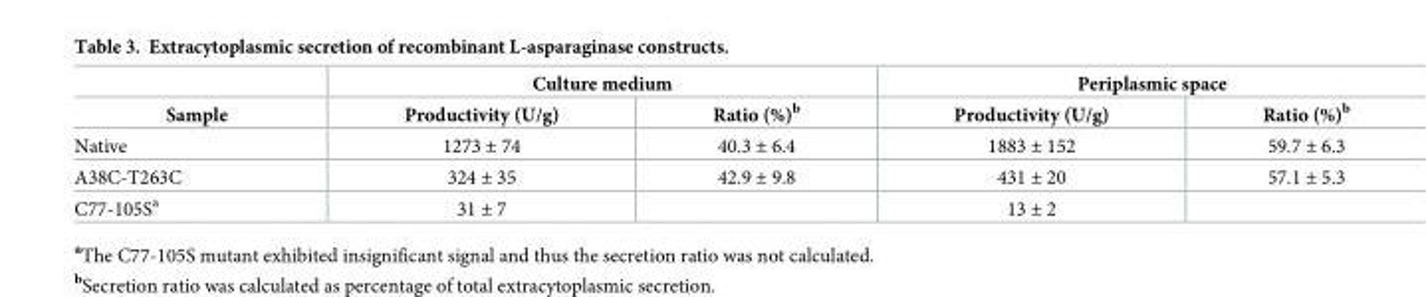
<table><thead><tr><td rowspan="2">Sample</td><td colspan="2">Culture medium</td><td colspan="2">Periplasmic space</td></tr><tr><td>Productivity (U/g)</td><td>Ratio (%)<sup>b</sup></td><td>Productivity (U/g)</td><td>Ratio (%)<sup>b</sup></td></tr></thead><tbody><tr><td>Native</td><td>1273 ± 74</td><td>40.3 ± 6.4</td><td>1883 ± 152</td><td>59.7 ± 6.3</td></tr><tr><td>A38C-T263C</td><td>324 ± 35</td><td>42.9 ± 9.8</td><td>431 ± 20</td><td>57.1 ± 5.3</td></tr><tr><td>C77-105S<sup>a</sup></td><td>31 ± 7</td><td></td><td>13 ± 2</td><td></td></tr></tbody></table>